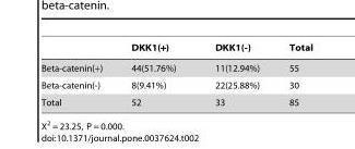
<table><thead><tr><td></td><td>DKK1(+)</td><td>DKK1(-)</td><td>Total</td></tr></thead><tbody><tr><td>Beta-catenin(+)</td><td>44(51.76%)</td><td>11(12.94%)</td><td>55</td></tr><tr><td>Beta-catenin(-)</td><td>8(9.41%)</td><td>22(25.88%)</td><td>30</td></tr><tr><td>Total</td><td>52</td><td>33</td><td>85</td></tr></tbody></table>